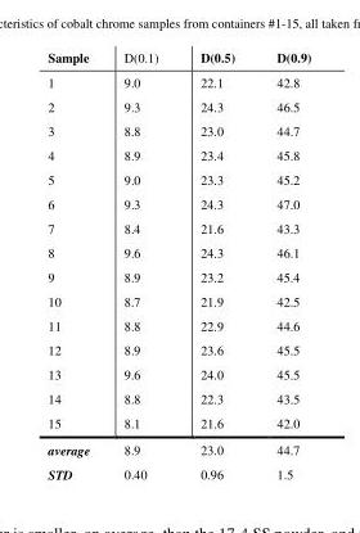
<table><thead><tr><td>Sample</td><td>D(0.1)</td><td>D(0.5)</td><td>D(0.9)</td></tr></thead><tbody><tr><td>1</td><td>9.0</td><td>22.1</td><td>42.8</td></tr><tr><td>2</td><td>9.3</td><td>24.3</td><td>46.5</td></tr><tr><td>3</td><td>8.8</td><td>23.0</td><td>44.7</td></tr><tr><td>4</td><td>8.9</td><td>23.4</td><td>45.8</td></tr><tr><td>5</td><td>9.0</td><td>23.3</td><td>45.2</td></tr><tr><td>6</td><td>9.3</td><td>24.3</td><td>47.0</td></tr><tr><td>7</td><td>8.4</td><td>21.6</td><td>43.3</td></tr><tr><td>8</td><td>9.6</td><td>24.3</td><td>46.1</td></tr><tr><td>9</td><td>8.9</td><td>23.2</td><td>45.4</td></tr><tr><td>10</td><td>8.7</td><td>21.9</td><td>42.5</td></tr><tr><td>11</td><td>8.8</td><td>22.9</td><td>44.6</td></tr><tr><td>12</td><td>8.9</td><td>23.6</td><td>45.5</td></tr><tr><td>13</td><td>9.6</td><td>24.0</td><td>45.5</td></tr><tr><td>14</td><td>8.8</td><td>22.3</td><td>43.5</td></tr><tr><td>15</td><td>8.1</td><td>21.6</td><td>42.0</td></tr><tr><td>average</td><td>8.9</td><td>23.0</td><td>44.7</td></tr><tr><td>STD</td><td>0.40</td><td>0.96</td><td>1.5</td></tr></tbody></table>